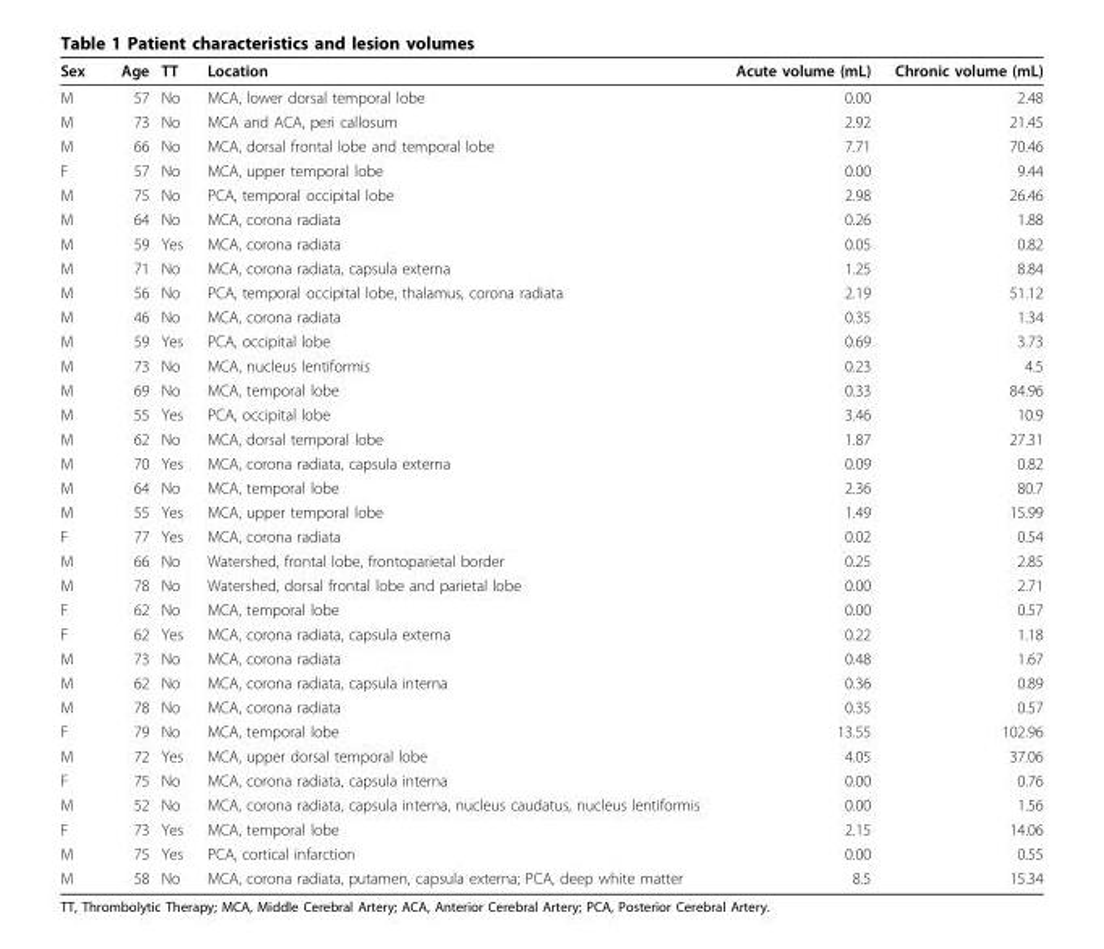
<table><thead><tr><td>Sex</td><td>Age</td><td>TT</td><td>Location</td><td>Acute volume (mL)</td><td>Chronic volume (mL)</td></tr></thead><tbody><tr><td>M</td><td>57</td><td>No</td><td>MCA, lower dorsal temporal lobe</td><td>0.00</td><td>2.48</td></tr><tr><td>M</td><td>73</td><td>No</td><td>MCA and ACA, peri callosum</td><td>2.92</td><td>21.45</td></tr><tr><td>M</td><td>66</td><td>No</td><td>MCA, dorsal frontal lobe and temporal lobe</td><td>7.71</td><td>70.46</td></tr><tr><td>F</td><td>57</td><td>No</td><td>MCA, upper temporal lobe</td><td>0.00</td><td>9.44</td></tr><tr><td>M</td><td>75</td><td>No</td><td>PCA, temporal occipital lobe</td><td>2.98</td><td>26.46</td></tr><tr><td>M</td><td>64</td><td>No</td><td>MCA, corona radiata</td><td>0.26</td><td>1.88</td></tr><tr><td>M</td><td>59</td><td>Yes</td><td>MCA, corona radiata</td><td>0.05</td><td>0.82</td></tr><tr><td>M</td><td>71</td><td>No</td><td>MCA, corona radiata, capsula externa</td><td>1.25</td><td>8.84</td></tr><tr><td>M</td><td>56</td><td>No</td><td>PCA, temporal occipital lobe, thalamus, corona radiata</td><td>2.19</td><td>51.12</td></tr><tr><td>M</td><td>46</td><td>No</td><td>MCA, corona radiata</td><td>0.35</td><td>1.34</td></tr><tr><td>M</td><td>59</td><td>Yes</td><td>PCA, occipital lobe</td><td>0.69</td><td>3.73</td></tr><tr><td>M</td><td>73</td><td>No</td><td>MCA, nucleus lentiformis</td><td>0.23</td><td>4.5</td></tr><tr><td>M</td><td>69</td><td>No</td><td>MCA, temporal lobe</td><td>0.33</td><td>84.96</td></tr><tr><td>M</td><td>55</td><td>Yes</td><td>PCA, occipital lobe</td><td>3.46</td><td>10.9</td></tr><tr><td>M</td><td>62</td><td>No</td><td>MCA, dorsal temporal lobe</td><td>1.87</td><td>27.31</td></tr><tr><td>M</td><td>70</td><td>Yes</td><td>MCA, corona radiata, capsula externa</td><td>0.09</td><td>0.82</td></tr><tr><td>M</td><td>64</td><td>No</td><td>MCA, temporal lobe</td><td>2.36</td><td>80.7</td></tr><tr><td>M</td><td>55</td><td>Yes</td><td>MCA, upper temporal lobe</td><td>1.49</td><td>15.99</td></tr><tr><td>F</td><td>77</td><td>Yes</td><td>MCA, corona radiata</td><td>0.02</td><td>0.54</td></tr><tr><td>M</td><td>66</td><td>No</td><td>Watershed, frontal lobe, frontoparietal border</td><td>0.25</td><td>2.85</td></tr><tr><td>M</td><td>78</td><td>No</td><td>Watershed, dorsal frontal lobe and parietal lobe</td><td>0.00</td><td>2.71</td></tr><tr><td>F</td><td>62</td><td>No</td><td>MCA, temporal lobe</td><td>0.00</td><td>0.57</td></tr><tr><td>F</td><td>62</td><td>Yes</td><td>MCA, corona radiata, capsula externa</td><td>0.22</td><td>1.18</td></tr><tr><td>M</td><td>73</td><td>No</td><td>MCA, corona radiata</td><td>0.48</td><td>1.67</td></tr><tr><td>M</td><td>62</td><td>No</td><td>MCA, corona radiata, capsula interna</td><td>0.36</td><td>0.89</td></tr><tr><td>M</td><td>78</td><td>No</td><td>MCA, corona radiata</td><td>0.35</td><td>0.57</td></tr><tr><td>F</td><td>79</td><td>No</td><td>MCA, temporal lobe</td><td>13.55</td><td>102.96</td></tr><tr><td>M</td><td>72</td><td>Yes</td><td>MCA, upper dorsal temporal lobe</td><td>4.05</td><td>37.06</td></tr><tr><td>F</td><td>75</td><td>No</td><td>MCA, corona radiata, capsula interna</td><td>0.00</td><td>0.76</td></tr><tr><td>M</td><td>52</td><td>No</td><td>MCA, corona radiata, capsula interna, nucleus caudatus, nucleus lentiformis</td><td>0.00</td><td>1.56</td></tr><tr><td>F</td><td>73</td><td>Yes</td><td>MCA, temporal lobe</td><td>2.15</td><td>14.06</td></tr><tr><td>M</td><td>75</td><td>Yes</td><td>PCA, cortical infarction</td><td>0.00</td><td>0.55</td></tr><tr><td>M</td><td>58</td><td>No</td><td>MCA, corona radiata, putamen, capsula externa; PCA, deep white matter</td><td>8.5</td><td>15.34</td></tr></tbody></table>